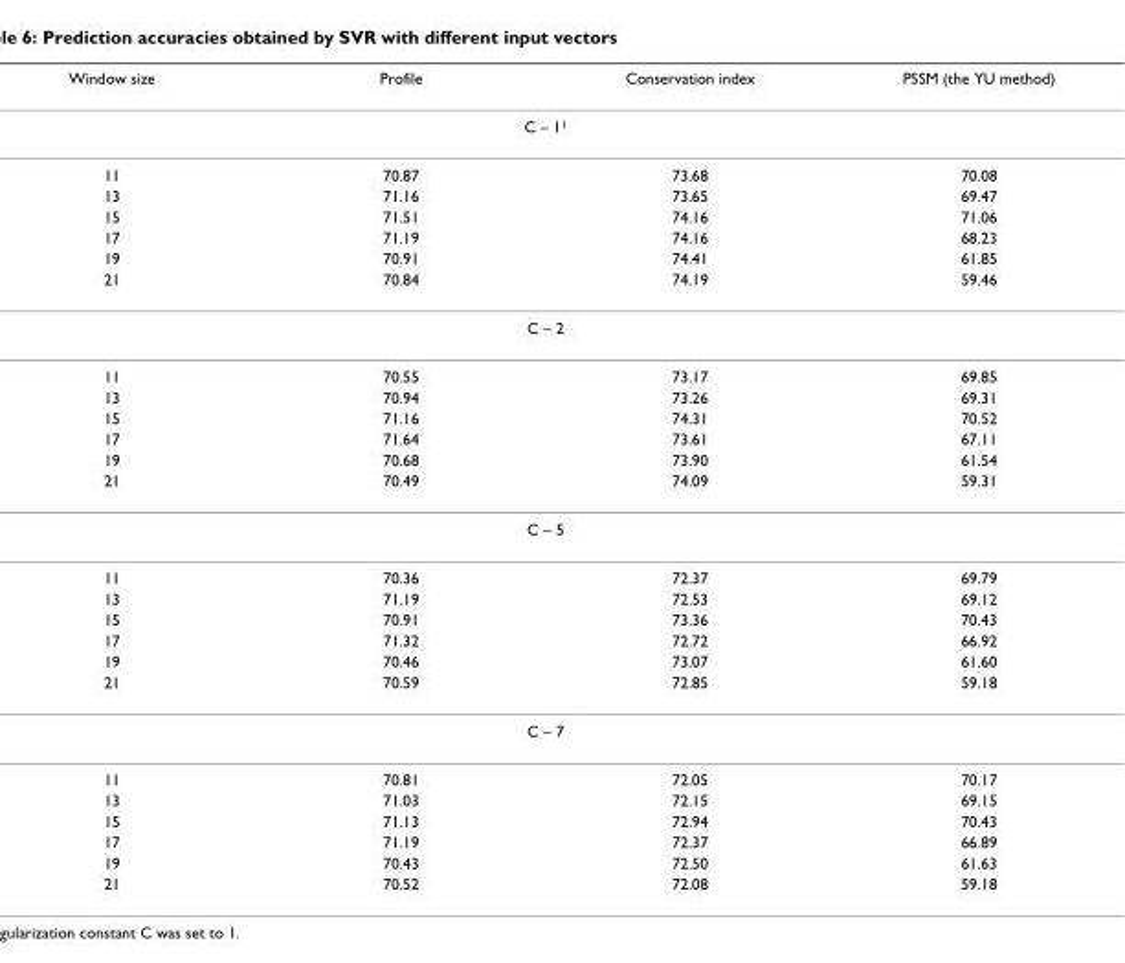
<table><thead><tr><td>Window size</td><td>Profile</td><td>Conservation index</td><td>PSSM (the YU method)</td></tr></thead><tbody><tr><td colspan="4">C – 1<sup>1</sup></td></tr><tr><td>11</td><td>70.87</td><td>73.68</td><td>70.08</td></tr><tr><td>13</td><td>71.16</td><td>73.65</td><td>69.47</td></tr><tr><td>15</td><td>71.51</td><td>74.16</td><td>71.06</td></tr><tr><td>17</td><td>71.19</td><td>74.16</td><td>68.23</td></tr><tr><td>19</td><td>70.91</td><td>74.41</td><td>61.85</td></tr><tr><td>21</td><td>70.84</td><td>74.19</td><td>59.46</td></tr><tr><td colspan="4">C – 2</td></tr><tr><td>11</td><td>70.55</td><td>73.17</td><td>69.85</td></tr><tr><td>13</td><td>70.94</td><td>73.26</td><td>69.31</td></tr><tr><td>15</td><td>71.16</td><td>74.31</td><td>70.52</td></tr><tr><td>17</td><td>71.64</td><td>73.61</td><td>67.11</td></tr><tr><td>19</td><td>70.68</td><td>73.90</td><td>61.54</td></tr><tr><td>21</td><td>70.49</td><td>74.09</td><td>59.31</td></tr><tr><td colspan="4">C – 5</td></tr><tr><td>11</td><td>70.36</td><td>72.37</td><td>69.79</td></tr><tr><td>13</td><td>71.19</td><td>72.53</td><td>69.12</td></tr><tr><td>15</td><td>70.91</td><td>73.36</td><td>70.43</td></tr><tr><td>17</td><td>71.32</td><td>72.72</td><td>66.92</td></tr><tr><td>19</td><td>70.46</td><td>73.07</td><td>61.60</td></tr><tr><td>21</td><td>70.59</td><td>72.85</td><td>59.18</td></tr><tr><td colspan="4">C – 7</td></tr><tr><td>11</td><td>70.81</td><td>72.05</td><td>70.17</td></tr><tr><td>13</td><td>71.03</td><td>72.15</td><td>69.15</td></tr><tr><td>15</td><td>71.13</td><td>72.94</td><td>70.43</td></tr><tr><td>17</td><td>71.19</td><td>72.37</td><td>66.89</td></tr><tr><td>19</td><td>70.43</td><td>72.50</td><td>61.63</td></tr><tr><td>21</td><td>70.52</td><td>72.08</td><td>59.18</td></tr></tbody></table>